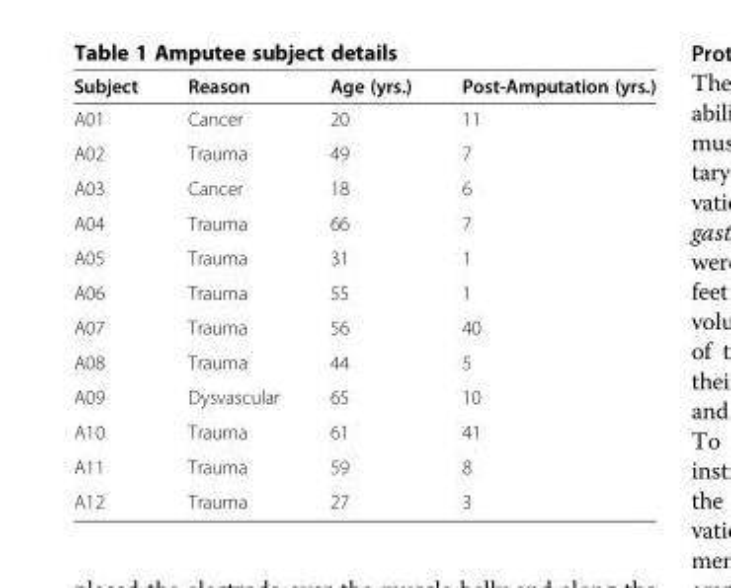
<table><thead><tr><td>Subject</td><td>Reason</td><td>Age (yrs.)</td><td>Post-Amputation (yrs.)</td></tr></thead><tbody><tr><td>A01</td><td>Cancer</td><td>20</td><td>11</td></tr><tr><td>A02</td><td>Trauma</td><td>49</td><td>7</td></tr><tr><td>A03</td><td>Cancer</td><td>18</td><td>6</td></tr><tr><td>A04</td><td>Trauma</td><td>66</td><td>7</td></tr><tr><td>A05</td><td>Trauma</td><td>31</td><td>1</td></tr><tr><td>A06</td><td>Trauma</td><td>55</td><td>1</td></tr><tr><td>A07</td><td>Trauma</td><td>56</td><td>40</td></tr><tr><td>A08</td><td>Trauma</td><td>44</td><td>5</td></tr><tr><td>A09</td><td>Dysvascular</td><td>65</td><td>10</td></tr><tr><td>A10</td><td>Trauma</td><td>61</td><td>41</td></tr><tr><td>A11</td><td>Trauma</td><td>59</td><td>8</td></tr><tr><td>A12</td><td>Trauma</td><td>27</td><td>3</td></tr></tbody></table>